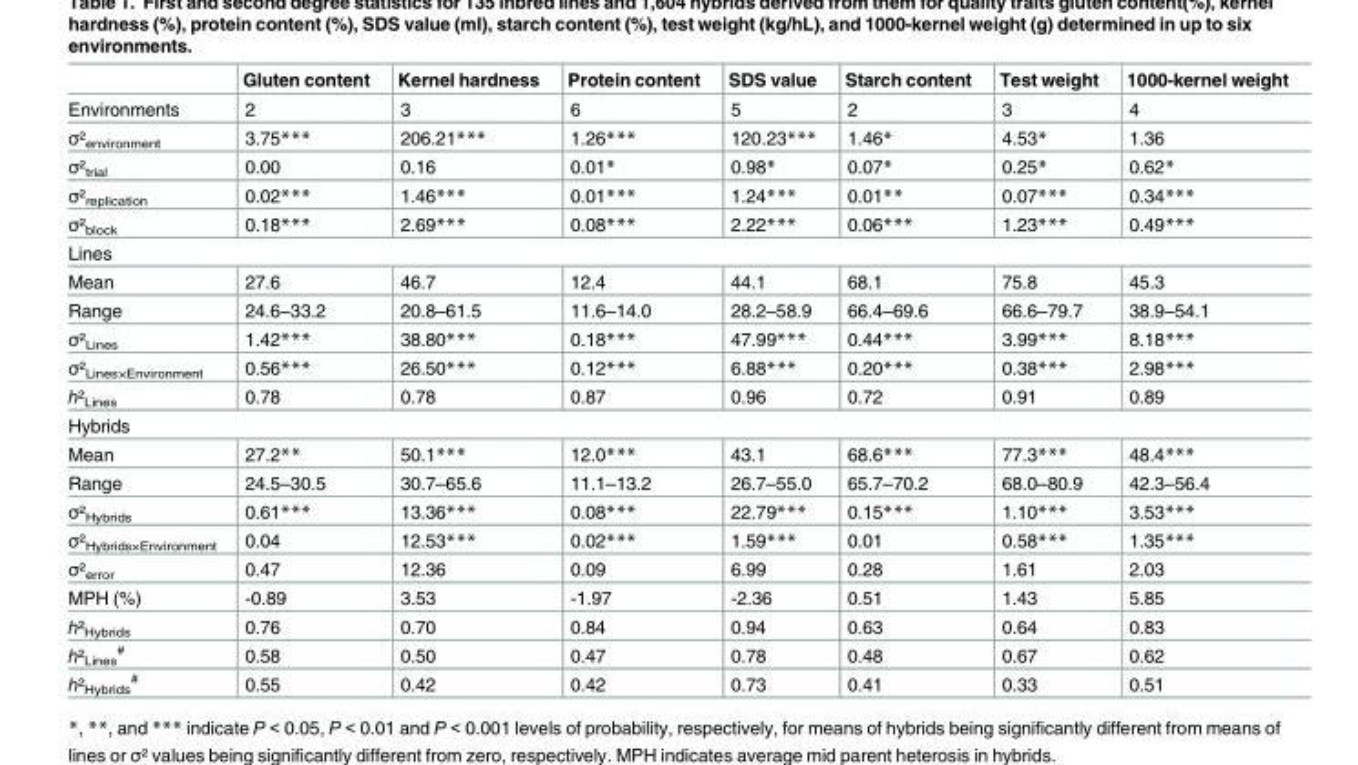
<table><thead><tr><td></td><td>Gluten content</td><td>Kernel hardness</td><td>Protein content</td><td>SDS value</td><td>Starch content</td><td>Test weight</td><td>1000-kernel weight</td></tr></thead><tbody><tr><td>Environments</td><td>2</td><td>3</td><td>6</td><td>5</td><td>2</td><td>3</td><td>4</td></tr><tr><td>σ²<sub>environment</sub></td><td>3.75***</td><td>206.21***</td><td>1.26***</td><td>120.23***</td><td>1.46*</td><td>4.53*</td><td>1.36</td></tr><tr><td>σ²<sub>trial</sub></td><td>0.00</td><td>0.16</td><td>0.01*</td><td>0.98*</td><td>0.07*</td><td>0.25*</td><td>0.62*</td></tr><tr><td>σ²<sub>replication</sub></td><td>0.02***</td><td>1.46***</td><td>0.01***</td><td>1.24***</td><td>0.01**</td><td>0.07***</td><td>0.34***</td></tr><tr><td>σ²<sub>block</sub></td><td>0.18***</td><td>2.69***</td><td>0.08***</td><td>2.22***</td><td>0.06***</td><td>1.23***</td><td>0.49***</td></tr><tr><td colspan="8">Lines</td></tr><tr><td>Mean</td><td>27.6</td><td>46.7</td><td>12.4</td><td>44.1</td><td>68.1</td><td>75.8</td><td>45.3</td></tr><tr><td>Range</td><td>24.6–33.2</td><td>20.8–61.5</td><td>11.6–14.0</td><td>28.2–58.9</td><td>66.4–69.6</td><td>66.6–79.7</td><td>38.9–54.1</td></tr><tr><td>σ²<sub>Lines</sub></td><td>1.42***</td><td>38.80***</td><td>0.18***</td><td>47.99***</td><td>0.44***</td><td>3.99***</td><td>8.18***</td></tr><tr><td>σ²<sub>Lines×Environment</sub></td><td>0.56***</td><td>26.50***</td><td>0.12***</td><td>6.88***</td><td>0.20***</td><td>0.38***</td><td>2.98***</td></tr><tr><td>h²<sub>Lines</sub></td><td>0.78</td><td>0.78</td><td>0.87</td><td>0.96</td><td>0.72</td><td>0.91</td><td>0.89</td></tr><tr><td colspan="8">Hybrids</td></tr><tr><td>Mean</td><td>27.2**</td><td>50.1***</td><td>12.0***</td><td>43.1</td><td>68.6***</td><td>77.3***</td><td>48.4***</td></tr><tr><td>Range</td><td>24.5–30.5</td><td>30.7–65.6</td><td>11.1–13.2</td><td>26.7–55.0</td><td>65.7–70.2</td><td>68.0–80.9</td><td>42.3–56.4</td></tr><tr><td>σ²<sub>Hybrids</sub></td><td>0.61***</td><td>13.36***</td><td>0.08***</td><td>22.79***</td><td>0.15***</td><td>1.10***</td><td>3.53***</td></tr><tr><td>σ²<sub>Hybrids×Environment</sub></td><td>0.04</td><td>12.53***</td><td>0.02***</td><td>1.59***</td><td>0.01</td><td>0.58***</td><td>1.35***</td></tr><tr><td>σ²<sub>error</sub></td><td>0.47</td><td>12.36</td><td>0.09</td><td>6.99</td><td>0.28</td><td>1.61</td><td>2.03</td></tr><tr><td>MPH (%)</td><td>-0.89</td><td>3.53</td><td>-1.97</td><td>-2.36</td><td>0.51</td><td>1.43</td><td>5.85</td></tr><tr><td>h²<sub>Hybrids</sub></td><td>0.76</td><td>0.70</td><td>0.84</td><td>0.94</td><td>0.63</td><td>0.64</td><td>0.83</td></tr><tr><td>h²<sub>Lines</sub> <sup>#</sup></td><td>0.58</td><td>0.50</td><td>0.47</td><td>0.78</td><td>0.48</td><td>0.67</td><td>0.62</td></tr><tr><td>h²<sub>Hybrids</sub> <sup>#</sup></td><td>0.55</td><td>0.42</td><td>0.42</td><td>0.73</td><td>0.41</td><td>0.33</td><td>0.51</td></tr></tbody></table>